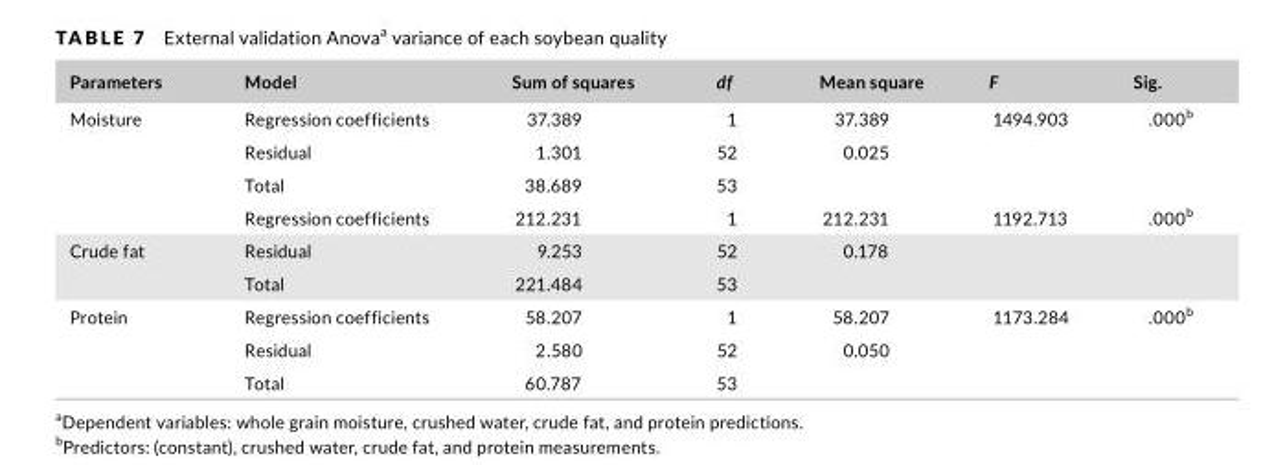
<table><thead><tr><td>Parameters</td><td>Model</td><td>Sum of squares</td><td>df</td><td>Mean square</td><td>F</td><td>Sig.</td></tr></thead><tbody><tr><td rowspan="4">Moisture</td><td>Regression coefficients</td><td>37.389</td><td>1</td><td>37.389</td><td>1494.903</td><td>.000b</td></tr><tr><td>Residual</td><td>1.301</td><td>52</td><td>0.025</td><td></td><td></td></tr><tr><td>Total</td><td>38.689</td><td>53</td><td></td><td></td><td></td></tr><tr><td>Regression coefficients</td><td>212.231</td><td>1</td><td>212.231</td><td>1192.713</td><td>.000b</td></tr><tr><td rowspan="2">Crude fat</td><td>Residual</td><td>9.253</td><td>52</td><td>0.178</td><td></td><td></td></tr><tr><td>Total</td><td>221.484</td><td>53</td><td></td><td></td><td></td></tr><tr><td rowspan="3">Protein</td><td>Regression coefficients</td><td>58.207</td><td>1</td><td>58.207</td><td>1173.284</td><td>.000b</td></tr><tr><td>Residual</td><td>2.580</td><td>52</td><td>0.050</td><td></td><td></td></tr><tr><td>Total</td><td>60.787</td><td>53</td><td></td><td></td><td></td></tr></tbody></table>